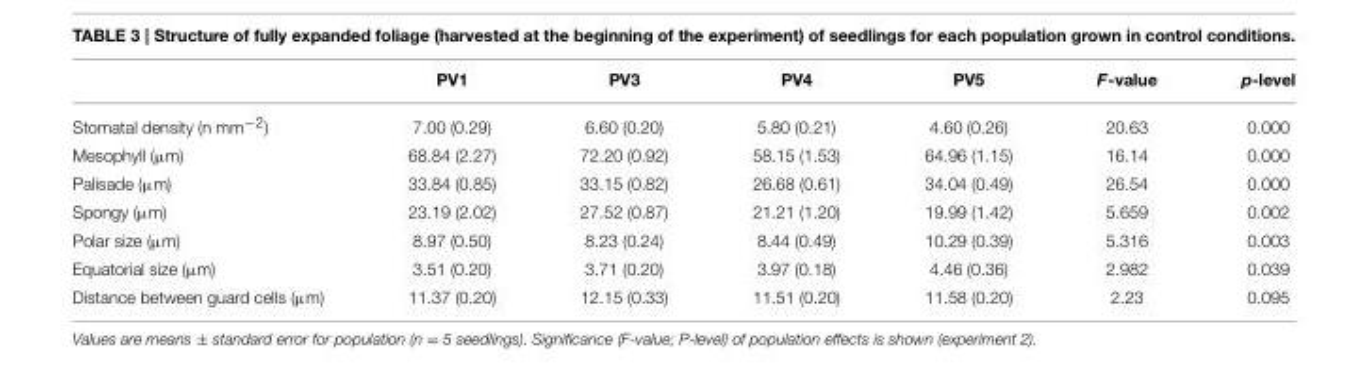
<table><thead><tr><td></td><td>PV1</td><td>PV3</td><td>PV4</td><td>PV5</td><td>F-value</td><td>p-level</td></tr></thead><tbody><tr><td>Stomatal density (n mm<sup>−2</sup>)</td><td>7.00 (0.29)</td><td>6.60 (0.20)</td><td>5.80 (0.21)</td><td>4.60 (0.26)</td><td>20.63</td><td>0.000</td></tr><tr><td>Mesophyll (µm)</td><td>68.84 (2.27)</td><td>72.20 (0.92)</td><td>58.15 (1.53)</td><td>64.96 (1.15)</td><td>16.14</td><td>0.000</td></tr><tr><td>Palisade (µm)</td><td>33.84 (0.85)</td><td>33.15 (0.82)</td><td>26.68 (0.61)</td><td>34.04 (0.49)</td><td>26.54</td><td>0.000</td></tr><tr><td>Spongy (µm)</td><td>23.19 (2.02)</td><td>27.52 (0.87)</td><td>21.21 (1.20)</td><td>19.99 (1.42)</td><td>5.659</td><td>0.002</td></tr><tr><td>Polar size (µm)</td><td>8.97 (0.50)</td><td>8.23 (0.24)</td><td>8.44 (0.49)</td><td>10.29 (0.39)</td><td>5.316</td><td>0.003</td></tr><tr><td>Equatorial size (µm)</td><td>3.51 (0.20)</td><td>3.71 (0.20)</td><td>3.97 (0.18)</td><td>4.46 (0.36)</td><td>2.982</td><td>0.039</td></tr><tr><td>Distance between guard cells (µm)</td><td>11.37 (0.20)</td><td>12.15 (0.33)</td><td>11.51 (0.20)</td><td>11.58 (0.20)</td><td>2.23</td><td>0.095</td></tr></tbody></table>